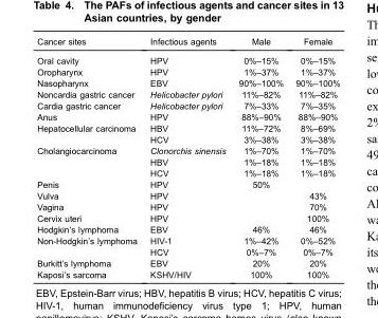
<table><thead><tr><td>Cancer sites</td><td>Infectious agents</td><td>Male</td><td>Female</td></tr></thead><tbody><tr><td>Oral cavity</td><td>HPV</td><td>0%–15%</td><td>0%–15%</td></tr><tr><td>Oropharynx</td><td>HPV</td><td>1%–37%</td><td>1%–37%</td></tr><tr><td>Nasopharynx</td><td>EBV</td><td>90%–100%</td><td>90%–100%</td></tr><tr><td>Noncardia gastric cancer</td><td>Helicobacter pylori</td><td>11%–82%</td><td>11%–82%</td></tr><tr><td>Cardia gastric cancer</td><td>Helicobacter pylori</td><td>7%–33%</td><td>7%–35%</td></tr><tr><td>Anus</td><td>HPV</td><td>88%–90%</td><td>88%–90%</td></tr><tr><td rowspan="2">Hepatocellular carcinoma</td><td>HBV</td><td>11%–72%</td><td>8%–69%</td></tr><tr><td>HCV</td><td>3%–38%</td><td>3%–38%</td></tr><tr><td rowspan="3">Cholangiocarcinoma</td><td>Clonorchis sinensis</td><td>1%–70%</td><td>1%–70%</td></tr><tr><td>HBV</td><td>1%–18%</td><td>1%–18%</td></tr><tr><td>HCV</td><td>1%–18%</td><td>1%–18%</td></tr><tr><td>Penis</td><td>HPV</td><td>50%</td><td></td></tr><tr><td>Vulva</td><td>HPV</td><td></td><td>43%</td></tr><tr><td>Vagina</td><td>HPV</td><td></td><td>70%</td></tr><tr><td>Cervix uteri</td><td>HPV</td><td></td><td>100%</td></tr><tr><td>Hodgkin’s lymphoma</td><td>EBV</td><td>46%</td><td>46%</td></tr><tr><td rowspan="2">Non-Hodgkin’s lymphoma</td><td>HIV-1</td><td>1%–42%</td><td>0%–52%</td></tr><tr><td>HCV</td><td>0%–7%</td><td>0%–7%</td></tr><tr><td>Burkitt’s lymphoma</td><td>EBV</td><td>20%</td><td>20%</td></tr><tr><td>Kaposi’s sarcoma</td><td>KSHV/HIV</td><td>100%</td><td>100%</td></tr></tbody></table>